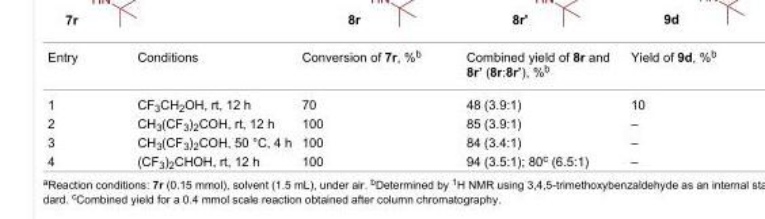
<table><tbody><tr><td>Entry</td><td>Conditions</td><td>Conversion of 7r, %<sup>b</sup></td><td>Combined yield of 8r and 8r’ (8r:8r’), %<sup>b</sup></td><td>Yield of 9d, %<sup>b</sup></td></tr><tr><td>1</td><td>CF<sub>3</sub>CH<sub>2</sub>OH, rt, 12 h</td><td>70</td><td>48 (3.9:1)</td><td>10</td></tr><tr><td>2</td><td>CH<sub>3</sub>(CF<sub>3</sub>)<sub>2</sub>COH, rt, 12 h</td><td>100</td><td>85 (3.9:1)</td><td>–</td></tr><tr><td>3</td><td>CH<sub>3</sub>(CF<sub>3</sub>)<sub>2</sub>COH, 50 °C, 4 h</td><td>100</td><td>84 (3.4:1)</td><td>–</td></tr><tr><td>4</td><td>(CF<sub>3</sub>)<sub>2</sub>CHOH, rt, 12 h</td><td>100</td><td>94 (3.5:1); 80<sup>c</sup> (6.5:1)</td><td>–</td></tr></tbody></table>